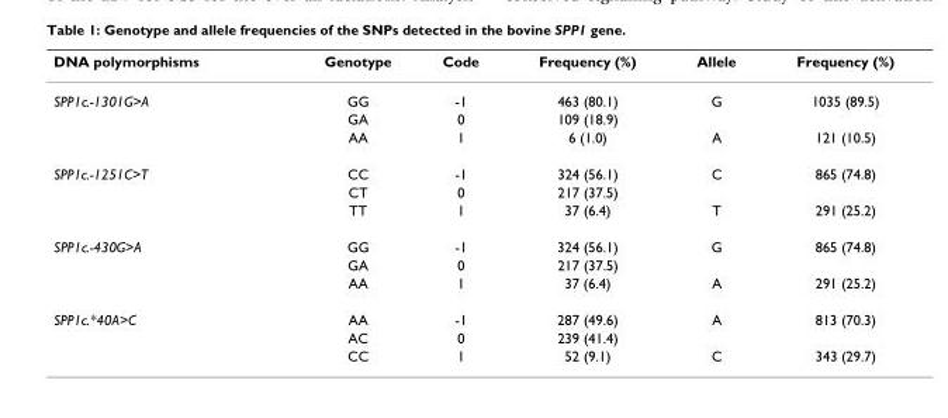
<table><thead><tr><td>DNA polymorphisms</td><td>Genotype</td><td>Code</td><td>Frequency (%)</td><td>Allele</td><td>Frequency (%)</td></tr></thead><tbody><tr><td rowspan="3">SPP1c.-1301G&gt;A</td><td>GG</td><td>-1</td><td>463 (80.1)</td><td>G</td><td>1035 (89.5)</td></tr><tr><td>GA</td><td>0</td><td>109 (18.9)</td><td></td><td></td></tr><tr><td>AA</td><td>1</td><td>6 (1.0)</td><td>A</td><td>121 (10.5)</td></tr><tr><td rowspan="3">SPP1c.-1251C&gt;T</td><td>CC</td><td>-1</td><td>324 (56.1)</td><td>C</td><td>865 (74.8)</td></tr><tr><td>CT</td><td>0</td><td>217 (37.5)</td><td></td><td></td></tr><tr><td>TT</td><td>1</td><td>37 (6.4)</td><td>T</td><td>291 (25.2)</td></tr><tr><td rowspan="3">SPP1c.-430G&gt;A</td><td>GG</td><td>-1</td><td>324 (56.1)</td><td>G</td><td>865 (74.8)</td></tr><tr><td>GA</td><td>0</td><td>217 (37.5)</td><td></td><td></td></tr><tr><td>AA</td><td>1</td><td>37 (6.4)</td><td>A</td><td>291 (25.2)</td></tr><tr><td rowspan="3">SPP1c.*40A&gt;C</td><td>AA</td><td>-1</td><td>287 (49.6)</td><td>A</td><td>813 (70.3)</td></tr><tr><td>AC</td><td>0</td><td>239 (41.4)</td><td></td><td></td></tr><tr><td>CC</td><td>1</td><td>52 (9.1)</td><td>C</td><td>343 (29.7)</td></tr></tbody></table>